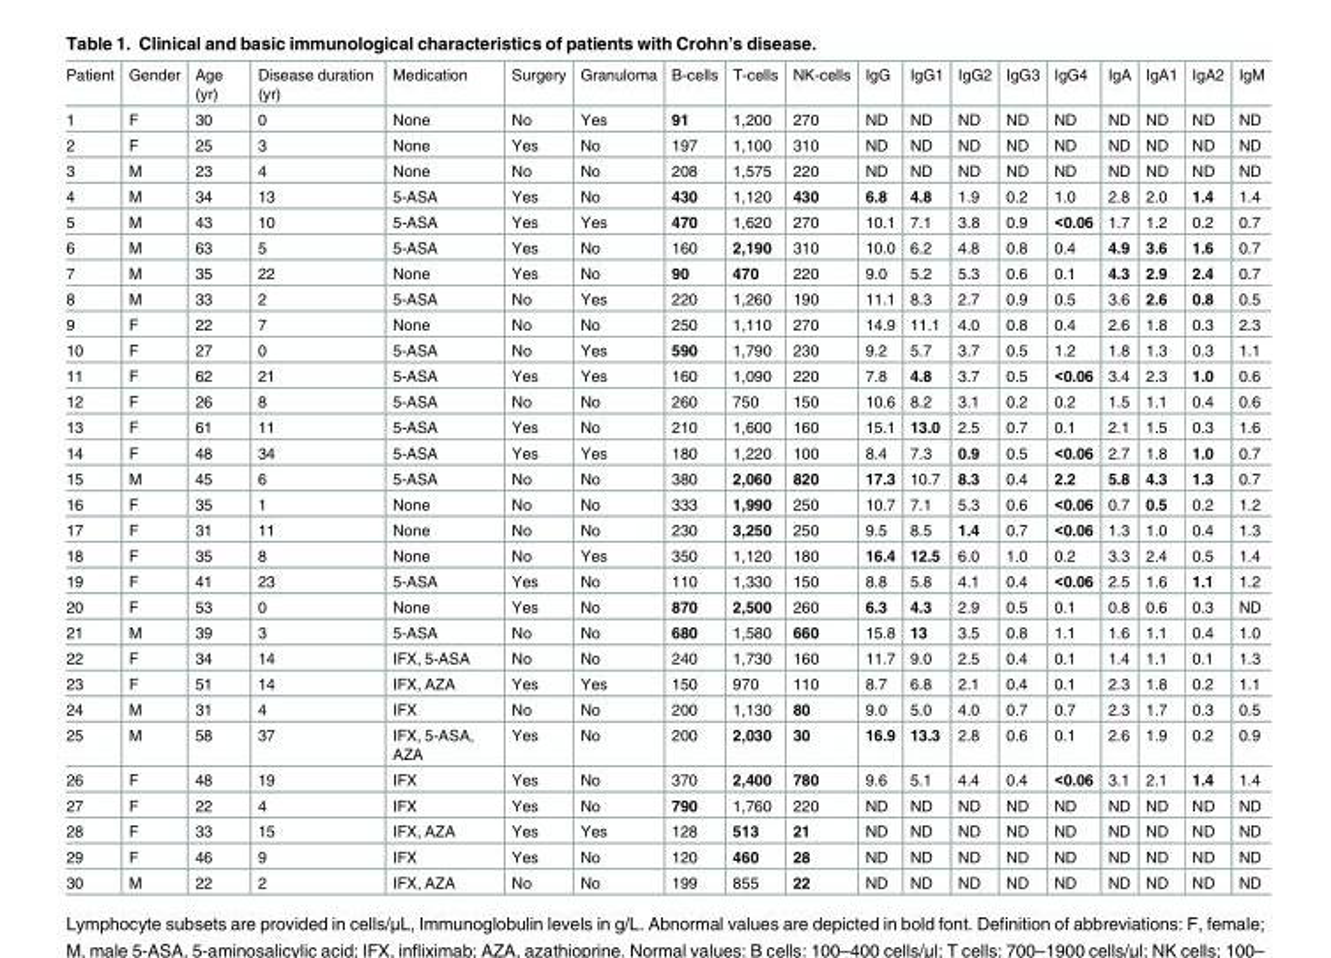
<table><tbody><tr><td>Patient</td><td>Gender</td><td>Age (yr)</td><td>Disease duration (yr)</td><td>Medication</td><td>Surgery</td><td>Granuloma</td><td>B-cells</td><td>T-cells</td><td>NK-cells</td><td>IgG</td><td>IgG1</td><td>IgG2</td><td>IgG3</td><td>IgG4</td><td>IgA</td><td>IgA1</td><td>IgA2</td><td>IgM</td></tr><tr><td>1</td><td>F</td><td>30</td><td>0</td><td>None</td><td>No</td><td>Yes</td><td>91</td><td>1,200</td><td>270</td><td>ND</td><td>ND</td><td>ND</td><td>ND</td><td>ND</td><td>ND</td><td>ND</td><td>ND</td><td>ND</td></tr><tr><td>2</td><td>F</td><td>25</td><td>3</td><td>None</td><td>Yes</td><td>No</td><td>197</td><td>1,100</td><td>310</td><td>ND</td><td>ND</td><td>ND</td><td>ND</td><td>ND</td><td>ND</td><td>ND</td><td>ND</td><td>ND</td></tr><tr><td>3</td><td>M</td><td>23</td><td>4</td><td>None</td><td>No</td><td>No</td><td>208</td><td>1,575</td><td>220</td><td>ND</td><td>ND</td><td>ND</td><td>ND</td><td>ND</td><td>ND</td><td>ND</td><td>ND</td><td>ND</td></tr><tr><td>4</td><td>M</td><td>34</td><td>13</td><td>5-ASA</td><td>Yes</td><td>No</td><td>430</td><td>1,120</td><td>430</td><td>6.8</td><td>4.8</td><td>1.9</td><td>0.2</td><td>1.0</td><td>2.8</td><td>2.0</td><td>1.4</td><td>1.4</td></tr><tr><td>5</td><td>M</td><td>43</td><td>10</td><td>5-ASA</td><td>Yes</td><td>Yes</td><td>470</td><td>1,620</td><td>270</td><td>10.1</td><td>7.1</td><td>3.8</td><td>0.9</td><td>&lt;0.06</td><td>1.7</td><td>1.2</td><td>0.2</td><td>0.7</td></tr><tr><td>6</td><td>M</td><td>63</td><td>5</td><td>5-ASA</td><td>Yes</td><td>No</td><td>160</td><td>2,190</td><td>310</td><td>10.0</td><td>6.2</td><td>4.8</td><td>0.8</td><td>0.4</td><td>4.9</td><td>3.6</td><td>1.6</td><td>0.7</td></tr><tr><td>7</td><td>M</td><td>35</td><td>22</td><td>None</td><td>Yes</td><td>No</td><td>90</td><td>470</td><td>220</td><td>9.0</td><td>5.2</td><td>5.3</td><td>0.6</td><td>0.1</td><td>4.3</td><td>2.9</td><td>2.4</td><td>0.7</td></tr><tr><td>8</td><td>M</td><td>33</td><td>2</td><td>5-ASA</td><td>No</td><td>Yes</td><td>220</td><td>1,260</td><td>190</td><td>11.1</td><td>8.3</td><td>2.7</td><td>0.9</td><td>0.5</td><td>3.6</td><td>2.6</td><td>0.8</td><td>0.5</td></tr><tr><td>9</td><td>F</td><td>22</td><td>7</td><td>None</td><td>No</td><td>No</td><td>250</td><td>1,110</td><td>270</td><td>14.9</td><td>11.1</td><td>4.0</td><td>0.8</td><td>0.4</td><td>2.6</td><td>1.8</td><td>0.3</td><td>2.3</td></tr><tr><td>10</td><td>F</td><td>27</td><td>0</td><td>5-ASA</td><td>No</td><td>Yes</td><td>590</td><td>1,790</td><td>230</td><td>9.2</td><td>5.7</td><td>3.7</td><td>0.5</td><td>1.2</td><td>1.8</td><td>1.3</td><td>0.3</td><td>1.1</td></tr><tr><td>11</td><td>F</td><td>62</td><td>21</td><td>5-ASA</td><td>Yes</td><td>Yes</td><td>160</td><td>1,090</td><td>220</td><td>7.8</td><td>4.8</td><td>3.7</td><td>0.5</td><td>&lt;0.06</td><td>3.4</td><td>2.3</td><td>1.0</td><td>0.6</td></tr><tr><td>12</td><td>F</td><td>26</td><td>8</td><td>5-ASA</td><td>No</td><td>No</td><td>260</td><td>750</td><td>150</td><td>10.6</td><td>8.2</td><td>3.1</td><td>0.2</td><td>0.2</td><td>1.5</td><td>1.1</td><td>0.4</td><td>0.6</td></tr><tr><td>13</td><td>F</td><td>61</td><td>11</td><td>5-ASA</td><td>Yes</td><td>No</td><td>210</td><td>1,600</td><td>160</td><td>15.1</td><td>13.0</td><td>2.5</td><td>0.7</td><td>0.1</td><td>2.1</td><td>1.5</td><td>0.3</td><td>1.6</td></tr><tr><td>14</td><td>F</td><td>48</td><td>34</td><td>5-ASA</td><td>Yes</td><td>Yes</td><td>180</td><td>1,220</td><td>100</td><td>8.4</td><td>7.3</td><td>0.9</td><td>0.5</td><td>&lt;0.06</td><td>2.7</td><td>1.8</td><td>1.0</td><td>0.7</td></tr><tr><td>15</td><td>M</td><td>45</td><td>6</td><td>5-ASA</td><td>No</td><td>No</td><td>380</td><td>2,060</td><td>820</td><td>17.3</td><td>10.7</td><td>8.3</td><td>0.4</td><td>2.2</td><td>5.8</td><td>4.3</td><td>1.3</td><td>0.7</td></tr><tr><td>16</td><td>F</td><td>35</td><td>1</td><td>None</td><td>No</td><td>No</td><td>333</td><td>1,990</td><td>250</td><td>10.7</td><td>7.1</td><td>5.3</td><td>0.6</td><td>&lt;0.06</td><td>0.7</td><td>0.5</td><td>0.2</td><td>1.2</td></tr><tr><td>17</td><td>F</td><td>31</td><td>11</td><td>None</td><td>No</td><td>No</td><td>230</td><td>3,250</td><td>250</td><td>9.5</td><td>8.5</td><td>1.4</td><td>0.7</td><td>&lt;0.06</td><td>1.3</td><td>1.0</td><td>0.4</td><td>1.3</td></tr><tr><td>18</td><td>F</td><td>35</td><td>8</td><td>None</td><td>No</td><td>Yes</td><td>350</td><td>1,120</td><td>180</td><td>16.4</td><td>12.5</td><td>6.0</td><td>1.0</td><td>0.2</td><td>3.3</td><td>2.4</td><td>0.5</td><td>1.4</td></tr><tr><td>19</td><td>F</td><td>41</td><td>23</td><td>5-ASA</td><td>Yes</td><td>No</td><td>110</td><td>1,330</td><td>150</td><td>8.8</td><td>5.8</td><td>4.1</td><td>0.4</td><td>&lt;0.06</td><td>2.5</td><td>1.6</td><td>1.1</td><td>1.2</td></tr><tr><td>20</td><td>F</td><td>53</td><td>0</td><td>None</td><td>Yes</td><td>No</td><td>870</td><td>2,500</td><td>260</td><td>6.3</td><td>4.3</td><td>2.9</td><td>0.5</td><td>0.1</td><td>0.8</td><td>0.6</td><td>0.3</td><td>ND</td></tr><tr><td>21</td><td>M</td><td>39</td><td>3</td><td>5-ASA</td><td>No</td><td>No</td><td>680</td><td>1,580</td><td>660</td><td>15.8</td><td>13</td><td>3.5</td><td>0.8</td><td>1.1</td><td>1.6</td><td>1.1</td><td>0.4</td><td>1.0</td></tr><tr><td>22</td><td>F</td><td>34</td><td>14</td><td>IFX, 5-ASA</td><td>No</td><td>No</td><td>240</td><td>1,730</td><td>160</td><td>11.7</td><td>9.0</td><td>2.5</td><td>0.4</td><td>0.1</td><td>1.4</td><td>1.1</td><td>0.1</td><td>1.3</td></tr><tr><td>23</td><td>F</td><td>51</td><td>14</td><td>IFX, AZA</td><td>Yes</td><td>Yes</td><td>150</td><td>970</td><td>110</td><td>8.7</td><td>6.8</td><td>2.1</td><td>0.4</td><td>0.1</td><td>2.3</td><td>1.8</td><td>0.2</td><td>1.1</td></tr><tr><td>24</td><td>M</td><td>31</td><td>4</td><td>IFX</td><td>No</td><td>No</td><td>200</td><td>1,130</td><td>80</td><td>9.0</td><td>5.0</td><td>4.0</td><td>0.7</td><td>0.7</td><td>2.3</td><td>1.7</td><td>0.3</td><td>0.5</td></tr><tr><td>25</td><td>M</td><td>58</td><td>37</td><td>IFX, 5-ASA, AZA</td><td>Yes</td><td>No</td><td>200</td><td>2,030</td><td>30</td><td>16.9</td><td>13.3</td><td>2.8</td><td>0.6</td><td>0.1</td><td>2.6</td><td>1.9</td><td>0.2</td><td>0.9</td></tr><tr><td>26</td><td>F</td><td>48</td><td>19</td><td>IFX</td><td>Yes</td><td>No</td><td>370</td><td>2,400</td><td>780</td><td>9.6</td><td>5.1</td><td>4.4</td><td>0.4</td><td>&lt;0.06</td><td>3.1</td><td>2.1</td><td>1.4</td><td>1.4</td></tr><tr><td>27</td><td>F</td><td>22</td><td>4</td><td>IFX</td><td>Yes</td><td>No</td><td>790</td><td>1,760</td><td>220</td><td>ND</td><td>ND</td><td>ND</td><td>ND</td><td>ND</td><td>ND</td><td>ND</td><td>ND</td><td>ND</td></tr><tr><td>28</td><td>F</td><td>33</td><td>15</td><td>IFX, AZA</td><td>Yes</td><td>Yes</td><td>128</td><td>513</td><td>21</td><td>ND</td><td>ND</td><td>ND</td><td>ND</td><td>ND</td><td>ND</td><td>ND</td><td>ND</td><td>ND</td></tr><tr><td>29</td><td>F</td><td>46</td><td>9</td><td>IFX</td><td>Yes</td><td>No</td><td>120</td><td>460</td><td>28</td><td>ND</td><td>ND</td><td>ND</td><td>ND</td><td>ND</td><td>ND</td><td>ND</td><td>ND</td><td>ND</td></tr><tr><td>30</td><td>M</td><td>22</td><td>2</td><td>IFX, AZA</td><td>No</td><td>No</td><td>199</td><td>855</td><td>22</td><td>ND</td><td>ND</td><td>ND</td><td>ND</td><td>ND</td><td>ND</td><td>ND</td><td>ND</td><td>ND</td></tr></tbody></table>